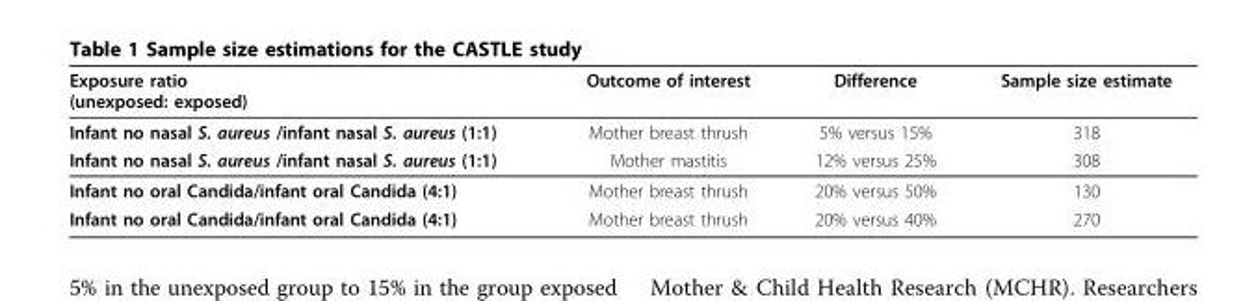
<table><thead><tr><td>Exposure ratio (unexposed: exposed)</td><td>Outcome of interest</td><td>Difference</td><td>Sample size estimate</td></tr></thead><tbody><tr><td>Infant no nasal S. aureus /infant nasal S. aureus (1:1)</td><td>Mother breast thrush</td><td>5% versus 15%</td><td>318</td></tr><tr><td>Infant no nasal S. aureus /infant nasal S. aureus (1:1)</td><td>Mother mastitis</td><td>12% versus 25%</td><td>308</td></tr><tr><td>Infant no oral Candida/infant oral Candida (4:1)</td><td>Mother breast thrush</td><td>20% versus 50%</td><td>130</td></tr><tr><td>Infant no oral Candida/infant oral Candida (4:1)</td><td>Mother breast thrush</td><td>20% versus 40%</td><td>270</td></tr></tbody></table>